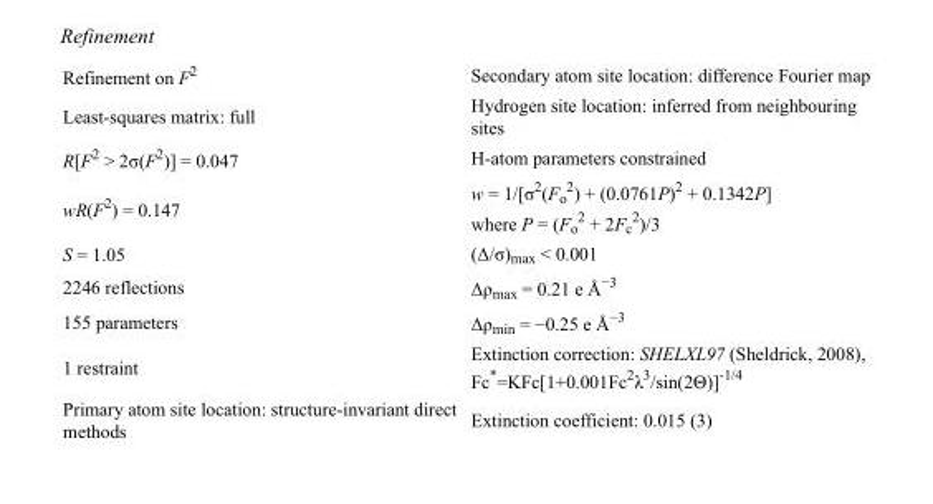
<table><tbody><tr><td>Refinement on F<sup>2</sup></td><td>Secondary atom site location: difference Fourier map</td></tr><tr><td>Least-squares matrix: full</td><td>Hydrogen site location: inferred from neighbouring sites</td></tr><tr><td>R[F<sup>2</sup> &gt; 2σ(F<sup>2</sup>)] = 0.047</td><td>H-atom parameters constrained</td></tr><tr><td>wR(F<sup>2</sup>) = 0.147</td><td>w = 1/[σ<sup>2</sup>(F<sub>o</sub> <sup>2</sup>) + (0.0761P)<sup>2</sup> + 0.1342P] where P = (F<sub>o</sub> <sup>2</sup> + 2F<sub>c</sub> <sup>2</sup>)/3</td></tr><tr><td>S = 1.05</td><td>(Δ/σ)<sub>max</sub> &lt; 0.001</td></tr><tr><td>2246 reflections</td><td>Δρ<sub>max</sub> = 0.21 e Å<sup>−3</sup></td></tr><tr><td>155 parameters</td><td>Δρ<sub>min</sub> = −0.25 e Å<sup>−3</sup></td></tr><tr><td>1 restraint</td><td>Extinction correction: SHELXL97 (Sheldrick, 2008), Fc*=KFc[1+0.001Fc<sup>2</sup>λ<sup>3</sup>/sin(2Θ)]<sup>-1/4</sup></td></tr><tr><td>Primary atom site location: structure-invariant direct methods</td><td>Extinction coefficient: 0.015 (3)</td></tr></tbody></table>